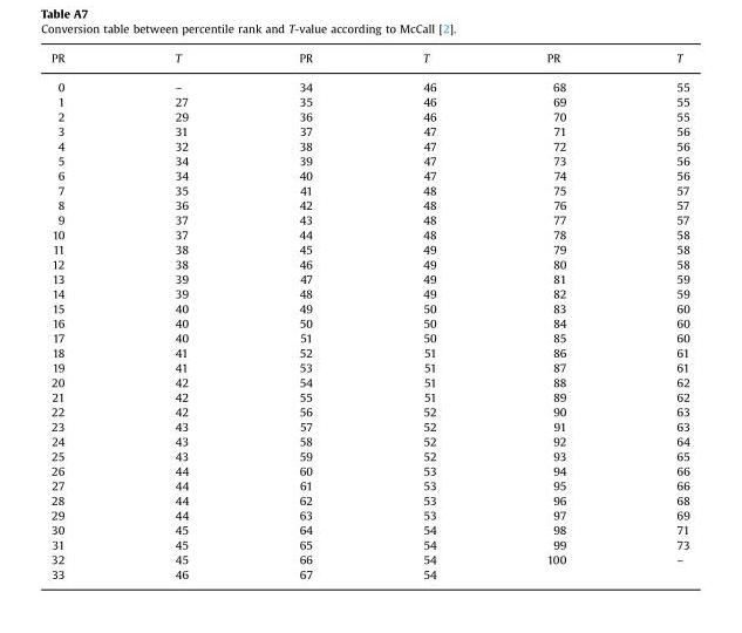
<table><thead><tr><td>PR</td><td>T</td><td>PR</td><td>T</td><td>PR</td><td>T</td></tr></thead><tbody><tr><td>0</td><td>–</td><td>34</td><td>46</td><td>68</td><td>55</td></tr><tr><td>1</td><td>27</td><td>35</td><td>46</td><td>69</td><td>55</td></tr><tr><td>2</td><td>29</td><td>36</td><td>46</td><td>70</td><td>55</td></tr><tr><td>3</td><td>31</td><td>37</td><td>47</td><td>71</td><td>56</td></tr><tr><td>4</td><td>32</td><td>38</td><td>47</td><td>72</td><td>56</td></tr><tr><td>5</td><td>34</td><td>39</td><td>47</td><td>73</td><td>56</td></tr><tr><td>6</td><td>34</td><td>40</td><td>47</td><td>74</td><td>56</td></tr><tr><td>7</td><td>35</td><td>41</td><td>48</td><td>75</td><td>57</td></tr><tr><td>8</td><td>36</td><td>42</td><td>48</td><td>76</td><td>57</td></tr><tr><td>9</td><td>37</td><td>43</td><td>48</td><td>77</td><td>57</td></tr><tr><td>10</td><td>37</td><td>44</td><td>48</td><td>78</td><td>58</td></tr><tr><td>11</td><td>38</td><td>45</td><td>49</td><td>79</td><td>58</td></tr><tr><td>12</td><td>38</td><td>46</td><td>49</td><td>80</td><td>58</td></tr><tr><td>13</td><td>39</td><td>47</td><td>49</td><td>81</td><td>59</td></tr><tr><td>14</td><td>39</td><td>48</td><td>49</td><td>82</td><td>59</td></tr><tr><td>15</td><td>40</td><td>49</td><td>50</td><td>83</td><td>60</td></tr><tr><td>16</td><td>40</td><td>50</td><td>50</td><td>84</td><td>60</td></tr><tr><td>17</td><td>40</td><td>51</td><td>50</td><td>85</td><td>60</td></tr><tr><td>18</td><td>41</td><td>52</td><td>51</td><td>86</td><td>61</td></tr><tr><td>19</td><td>41</td><td>53</td><td>51</td><td>87</td><td>61</td></tr><tr><td>20</td><td>42</td><td>54</td><td>51</td><td>88</td><td>62</td></tr><tr><td>21</td><td>42</td><td>55</td><td>51</td><td>89</td><td>62</td></tr><tr><td>22</td><td>42</td><td>56</td><td>52</td><td>90</td><td>63</td></tr><tr><td>23</td><td>43</td><td>57</td><td>52</td><td>91</td><td>63</td></tr><tr><td>24</td><td>43</td><td>58</td><td>52</td><td>92</td><td>64</td></tr><tr><td>25</td><td>43</td><td>59</td><td>52</td><td>93</td><td>65</td></tr><tr><td>26</td><td>44</td><td>60</td><td>53</td><td>94</td><td>66</td></tr><tr><td>27</td><td>44</td><td>61</td><td>53</td><td>95</td><td>66</td></tr><tr><td>28</td><td>44</td><td>62</td><td>53</td><td>96</td><td>68</td></tr><tr><td>29</td><td>44</td><td>63</td><td>53</td><td>97</td><td>69</td></tr><tr><td>30</td><td>45</td><td>64</td><td>54</td><td>98</td><td>71</td></tr><tr><td>31</td><td>45</td><td>65</td><td>54</td><td>99</td><td>73</td></tr><tr><td>32</td><td>45</td><td>66</td><td>54</td><td>100</td><td>–</td></tr><tr><td>33</td><td>46</td><td>67</td><td>54</td><td></td><td></td></tr></tbody></table>